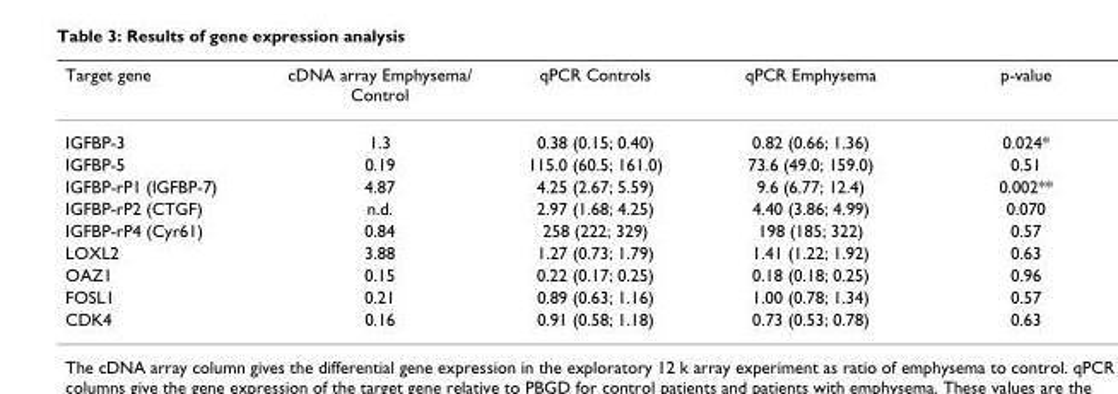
<table><thead><tr><td>Target gene</td><td>cDNA array Emphysema/ Control</td><td>qPCR Controls</td><td>qPCR Emphysema</td><td>p-value</td></tr></thead><tbody><tr><td>IGFBP-3</td><td>1.3</td><td>0.38 (0.15; 0.40)</td><td>0.82 (0.66; 1.36)</td><td>0.024*</td></tr><tr><td>IGFBP-5</td><td>0.19</td><td>115.0 (60.5; 161.0)</td><td>73.6 (49.0; 159.0)</td><td>0.51</td></tr><tr><td>IGFBP-rP1 (IGFBP-7)</td><td>4.87</td><td>4.25 (2.67; 5.59)</td><td>9.6 (6.77; 12.4)</td><td>0.002**</td></tr><tr><td>IGFBP-rP2 (CTGF)</td><td>n.d.</td><td>2.97 (1.68; 4.25)</td><td>4.40 (3.86; 4.99)</td><td>0.070</td></tr><tr><td>IGFBP-rP4 (Cyr61)</td><td>0.84</td><td>258 (222; 329)</td><td>198 (185; 322)</td><td>0.57</td></tr><tr><td>LOXL2</td><td>3.88</td><td>1.27 (0.73; 1.79)</td><td>1.41 (1.22; 1.92)</td><td>0.63</td></tr><tr><td>OAZ1</td><td>0.15</td><td>0.22 (0.17; 0.25)</td><td>0.18 (0.18; 0.25)</td><td>0.96</td></tr><tr><td>FOSL1</td><td>0.21</td><td>0.89 (0.63; 1.16)</td><td>1.00 (0.78; 1.34)</td><td>0.57</td></tr><tr><td>CDK4</td><td>0.16</td><td>0.91 (0.58; 1.18)</td><td>0.73 (0.53; 0.78)</td><td>0.63</td></tr></tbody></table>